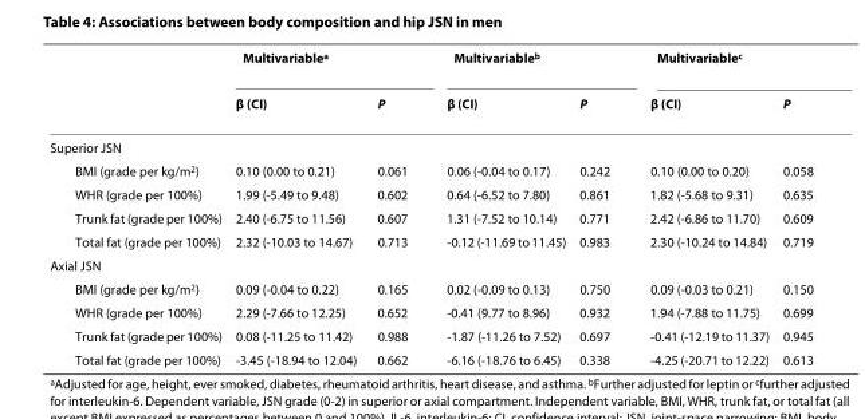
<table><thead><tr><td rowspan="2"></td><td colspan="2">Multivariable<sup>a</sup></td><td colspan="2">Multivariable<sup>b</sup></td><td colspan="2">Multivariable<sup>c</sup></td></tr><tr><td>β (CI)</td><td>P</td><td>β (CI)</td><td>P</td><td>β (CI)</td><td>P</td></tr></thead><tbody><tr><td colspan="7">Superior JSN</td></tr><tr><td>BMI (grade per kg/m<sup>2</sup>)</td><td>0.10 (0.00 to 0.21)</td><td>0.061</td><td>0.06 (-0.04 to 0.17)</td><td>0.242</td><td>0.10 (0.00 to 0.20)</td><td>0.058</td></tr><tr><td>WHR (grade per 100%)</td><td>1.99 (-5.49 to 9.48)</td><td>0.602</td><td>0.64 (-6.52 to 7.80)</td><td>0.861</td><td>1.82 (-5.68 to 9.31)</td><td>0.635</td></tr><tr><td>Trunk fat (grade per 100%)</td><td>2.40 (-6.75 to 11.56)</td><td>0.607</td><td>1.31 (-7.52 to 10.14)</td><td>0.771</td><td>2.42 (-6.86 to 11.70)</td><td>0.609</td></tr><tr><td>Total fat (grade per 100%)</td><td>2.32 (-10.03 to 14.67)</td><td>0.713</td><td>-0.12 (-11.69 to 11.45)</td><td>0.983</td><td>2.30 (-10.24 to 14.84)</td><td>0.719</td></tr><tr><td colspan="7">Axial JSN</td></tr><tr><td>BMI (grade per kg/m<sup>2</sup>)</td><td>0.09 (-0.04 to 0.22)</td><td>0.165</td><td>0.02 (-0.09 to 0.13)</td><td>0.750</td><td>0.09 (-0.03 to 0.21)</td><td>0.150</td></tr><tr><td>WHR (grade per 100%)</td><td>2.29 (-7.66 to 12.25)</td><td>0.652</td><td>-0.41 (9.77 to 8.96)</td><td>0.932</td><td>1.94 (-7.88 to 11.75)</td><td>0.699</td></tr><tr><td>Trunk fat (grade per 100%)</td><td>0.08 (-11.25 to 11.42)</td><td>0.988</td><td>-1.87 (-11.26 to 7.52)</td><td>0.697</td><td>-0.41 (-12.19 to 11.37)</td><td>0.945</td></tr><tr><td>Total fat (grade per 100%)</td><td>-3.45 (-18.94 to 12.04)</td><td>0.662</td><td>-6.16 (-18.76 to 6.45)</td><td>0.338</td><td>-4.25 (-20.71 to 12.22)</td><td>0.613</td></tr></tbody></table>